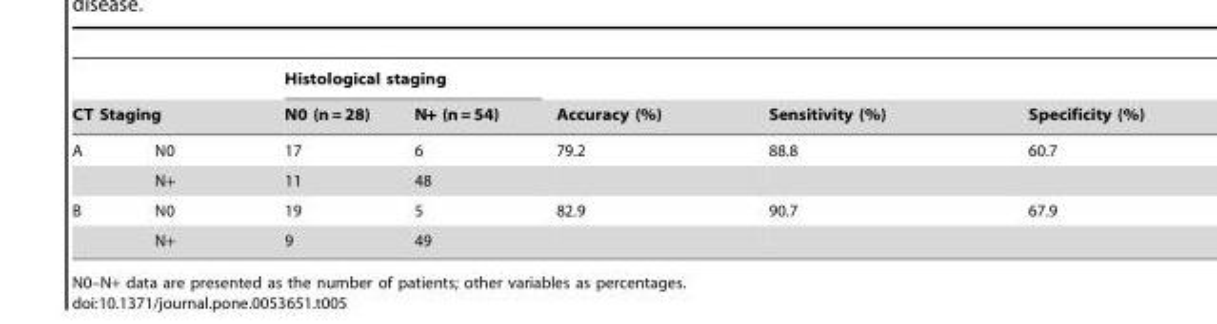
<table><thead><tr><td></td><td></td><td colspan="2">Histological staging</td><td rowspan="2">Accuracy (%)</td><td rowspan="2">Sensitivity (%)</td><td rowspan="2">Specificity (%)</td></tr><tr><td colspan="2">CT Staging</td><td>N0 (n = 28)</td><td>N+ (n = 54)</td></tr></thead><tbody><tr><td rowspan="2">A</td><td>N0</td><td>17</td><td>6</td><td>79.2</td><td>88.8</td><td>60.7</td></tr><tr><td>N+</td><td>11</td><td>48</td><td></td><td></td><td></td></tr><tr><td rowspan="2">B</td><td>N0</td><td>19</td><td>5</td><td>82.9</td><td>90.7</td><td>67.9</td></tr><tr><td>N+</td><td>9</td><td>49</td><td></td><td></td><td></td></tr></tbody></table>